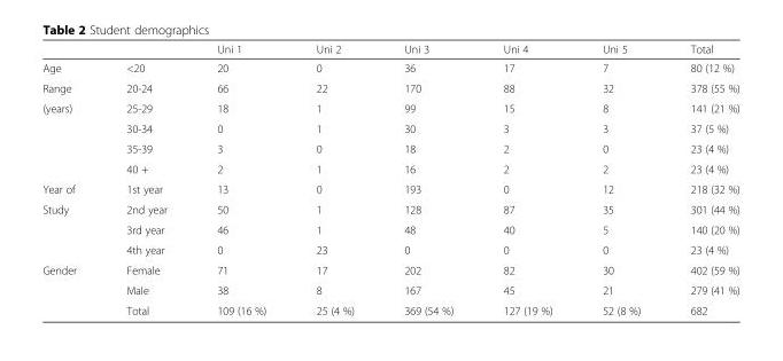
<table><thead><tr><td></td><td></td><td>Uni 1</td><td>Uni 2</td><td>Uni 3</td><td>Uni 4</td><td>Uni 5</td><td>Total</td></tr></thead><tbody><tr><td>Age</td><td>&lt;20</td><td>20</td><td>0</td><td>36</td><td>17</td><td>7</td><td>80 (12 %)</td></tr><tr><td>Range</td><td>20-24</td><td>66</td><td>22</td><td>170</td><td>88</td><td>32</td><td>378 (55 %)</td></tr><tr><td rowspan="4">(years)</td><td>25-29</td><td>18</td><td>1</td><td>99</td><td>15</td><td>8</td><td>141 (21 %)</td></tr><tr><td>30-34</td><td>0</td><td>1</td><td>30</td><td>3</td><td>3</td><td>37 (5 %)</td></tr><tr><td>35-39</td><td>3</td><td>0</td><td>18</td><td>2</td><td>0</td><td>23 (4 %)</td></tr><tr><td>40 +</td><td>2</td><td>1</td><td>16</td><td>2</td><td>2</td><td>23 (4 %)</td></tr><tr><td>Year of</td><td>1st year</td><td>13</td><td>0</td><td>193</td><td>0</td><td>12</td><td>218 (32 %)</td></tr><tr><td rowspan="3">Study</td><td>2nd year</td><td>50</td><td>1</td><td>128</td><td>87</td><td>35</td><td>301 (44 %)</td></tr><tr><td>3rd year</td><td>46</td><td>1</td><td>48</td><td>40</td><td>5</td><td>140 (20 %)</td></tr><tr><td>4th year</td><td>0</td><td>23</td><td>0</td><td>0</td><td>0</td><td>23 (4 %)</td></tr><tr><td rowspan="3">Gender</td><td>Female</td><td>71</td><td>17</td><td>202</td><td>82</td><td>30</td><td>402 (59 %)</td></tr><tr><td>Male</td><td>38</td><td>8</td><td>167</td><td>45</td><td>21</td><td>279 (41 %)</td></tr><tr><td>Total</td><td>109 (16 %)</td><td>25 (4 %)</td><td>369 (54 %)</td><td>127 (19 %)</td><td>52 (8 %)</td><td>682</td></tr></tbody></table>